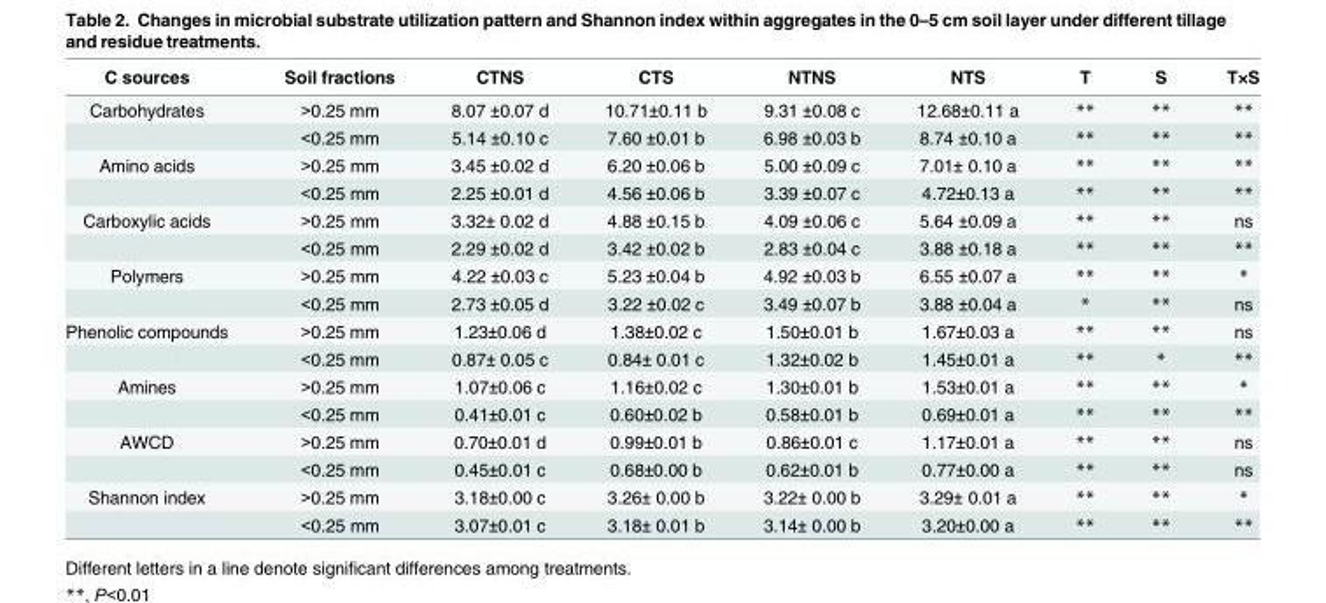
<table><thead><tr><td>C sources</td><td>Soil fractions</td><td>CTNS</td><td>CTS</td><td>NTNS</td><td>NTS</td><td>T</td><td>S</td><td>T×S</td></tr></thead><tbody><tr><td rowspan="2">Carbohydrates</td><td>&gt;0.25 mm</td><td>8.07 ±0.07 d</td><td>10.71±0.11 b</td><td>9.31 ±0.08 c</td><td>12.68±0.11 a</td><td>**</td><td>**</td><td>**</td></tr><tr><td>&lt;0.25 mm</td><td>5.14 ±0.10 c</td><td>7.60 ±0.01 b</td><td>6.98 ±0.03 b</td><td>8.74 ±0.10 a</td><td>**</td><td>**</td><td>**</td></tr><tr><td rowspan="2">Amino acids</td><td>&gt;0.25 mm</td><td>3.45 ±0.02 d</td><td>6.20 ±0.06 b</td><td>5.00 ±0.09 c</td><td>7.01± 0.10 a</td><td>**</td><td>**</td><td>**</td></tr><tr><td>&lt;0.25 mm</td><td>2.25 ±0.01 d</td><td>4.56 ±0.06 b</td><td>3.39 ±0.07 c</td><td>4.72±0.13 a</td><td>**</td><td>**</td><td>**</td></tr><tr><td rowspan="2">Carboxylic acids</td><td>&gt;0.25 mm</td><td>3.32± 0.02 d</td><td>4.88 ±0.15 b</td><td>4.09 ±0.06 c</td><td>5.64 ±0.09 a</td><td>**</td><td>**</td><td>ns</td></tr><tr><td>&lt;0.25 mm</td><td>2.29 ±0.02 d</td><td>3.42 ±0.02 b</td><td>2.83 ±0.04 c</td><td>3.88 ±0.18 a</td><td>**</td><td>**</td><td>**</td></tr><tr><td rowspan="2">Polymers</td><td>&gt;0.25 mm</td><td>4.22 ±0.03 c</td><td>5.23 ±0.04 b</td><td>4.92 ±0.03 b</td><td>6.55 ±0.07 a</td><td>**</td><td>**</td><td>*</td></tr><tr><td>&lt;0.25 mm</td><td>2.73 ±0.05 d</td><td>3.22 ±0.02 c</td><td>3.49 ±0.07 b</td><td>3.88 ±0.04 a</td><td>*</td><td>**</td><td>ns</td></tr><tr><td rowspan="2">Phenolic compounds</td><td>&gt;0.25 mm</td><td>1.23±0.06 d</td><td>1.38±0.02 c</td><td>1.50±0.01 b</td><td>1.67±0.03 a</td><td>**</td><td>**</td><td>ns</td></tr><tr><td>&lt;0.25 mm</td><td>0.87± 0.05 c</td><td>0.84± 0.01 c</td><td>1.32±0.02 b</td><td>1.45±0.01 a</td><td>**</td><td>*</td><td>**</td></tr><tr><td rowspan="2">Amines</td><td>&gt;0.25 mm</td><td>1.07±0.06 c</td><td>1.16±0.02 c</td><td>1.30±0.01 b</td><td>1.53±0.01 a</td><td>**</td><td>**</td><td>*</td></tr><tr><td>&lt;0.25 mm</td><td>0.41±0.01 c</td><td>0.60±0.02 b</td><td>0.58±0.01 b</td><td>0.69±0.01 a</td><td>**</td><td>**</td><td>**</td></tr><tr><td rowspan="2">AWCD</td><td>&gt;0.25 mm</td><td>0.70±0.01 d</td><td>0.99±0.01 b</td><td>0.86±0.01 c</td><td>1.17±0.01 a</td><td>**</td><td>**</td><td>ns</td></tr><tr><td>&lt;0.25 mm</td><td>0.45±0.01 c</td><td>0.68±0.00 b</td><td>0.62±0.01 b</td><td>0.77±0.00 a</td><td>**</td><td>**</td><td>ns</td></tr><tr><td rowspan="2">Shannon index</td><td>&gt;0.25 mm</td><td>3.18±0.00 c</td><td>3.26± 0.00 b</td><td>3.22± 0.00 b</td><td>3.29± 0.01 a</td><td>**</td><td>**</td><td>*</td></tr><tr><td>&lt;0.25 mm</td><td>3.07±0.01 c</td><td>3.18± 0.01 b</td><td>3.14± 0.00 b</td><td>3.20±0.00 a</td><td>**</td><td>**</td><td>**</td></tr></tbody></table>